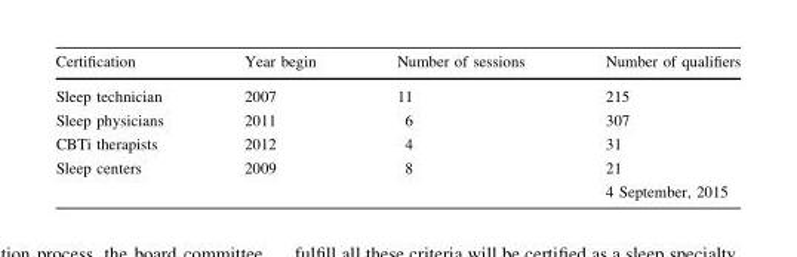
<table><thead><tr><td>Certification</td><td>Year begin</td><td>Number of sessions</td><td>Number of qualifiers</td></tr></thead><tbody><tr><td>Sleep technician</td><td>2007</td><td>11</td><td>215</td></tr><tr><td>Sleep physicians</td><td>2011</td><td>6</td><td>307</td></tr><tr><td>CBTi therapists</td><td>2012</td><td>4</td><td>31</td></tr><tr><td rowspan="2">Sleep centers</td><td>2009</td><td>8</td><td>21</td></tr><tr><td></td><td></td><td>4 September, 2015</td></tr></tbody></table>